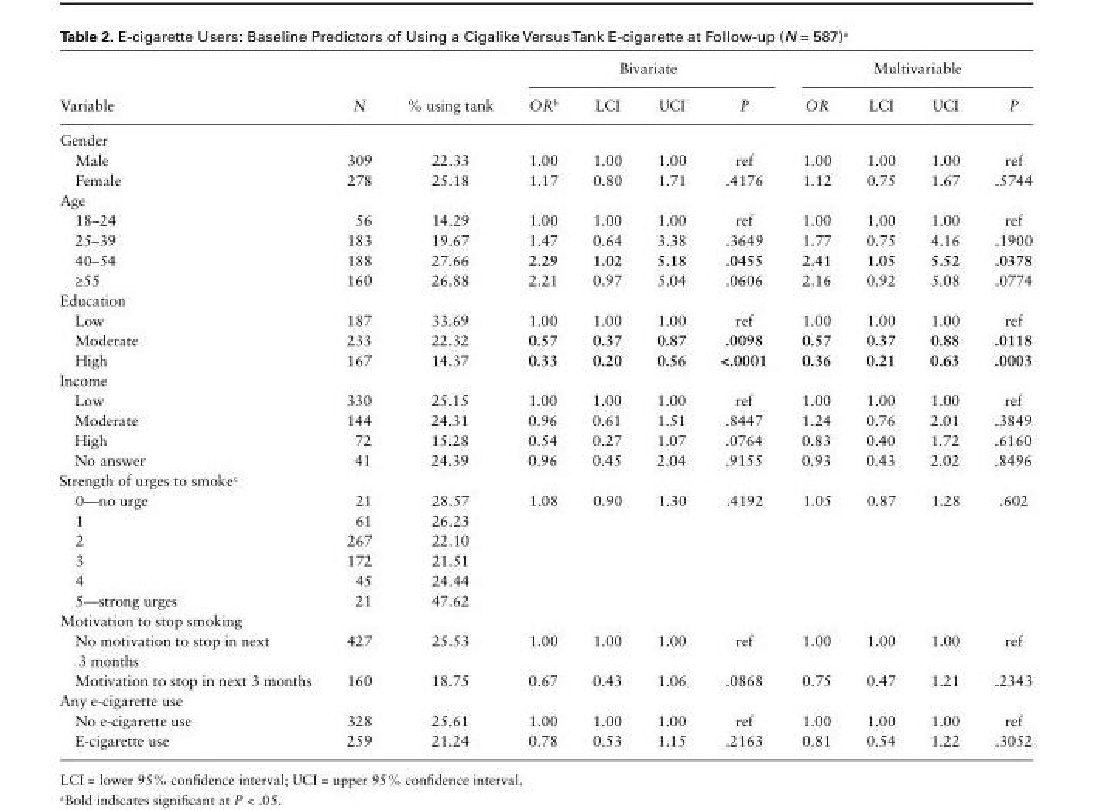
<table><thead><tr><td rowspan="2">Variable</td><td rowspan="2">N</td><td rowspan="2">% using tank</td><td colspan="4">Bivariate</td><td colspan="4">Multivariable</td></tr><tr><td>OR<sup>b</sup></td><td>LCI</td><td>UCI</td><td>P</td><td>OR</td><td>LCI</td><td>UCI</td><td>P</td></tr></thead><tbody><tr><td colspan="11">Gender</td></tr><tr><td>Male</td><td>309</td><td>22.33</td><td>1.00</td><td>1.00</td><td>1.00</td><td>ref</td><td>1.00</td><td>1.00</td><td>1.00</td><td>ref</td></tr><tr><td>Female</td><td>278</td><td>25.18</td><td>1.17</td><td>0.80</td><td>1.71</td><td>.4176</td><td>1.12</td><td>0.75</td><td>1.67</td><td>.5744</td></tr><tr><td colspan="11">Age</td></tr><tr><td>18–24</td><td>56</td><td>14.29</td><td>1.00</td><td>1.00</td><td>1.00</td><td>ref</td><td>1.00</td><td>1.00</td><td>1.00</td><td>ref</td></tr><tr><td>25–39</td><td>183</td><td>19.67</td><td>1.47</td><td>0.64</td><td>3.38</td><td>.3649</td><td>1.77</td><td>0.75</td><td>4.16</td><td>.1900</td></tr><tr><td>40–54</td><td>188</td><td>27.66</td><td>2.29</td><td>1.02</td><td>5.18</td><td>.0455</td><td>2.41</td><td>1.05</td><td>5.52</td><td>.0378</td></tr><tr><td>≥55</td><td>160</td><td>26.88</td><td>2.21</td><td>0.97</td><td>5.04</td><td>.0606</td><td>2.16</td><td>0.92</td><td>5.08</td><td>.0774</td></tr><tr><td colspan="11">Education</td></tr><tr><td>Low</td><td>187</td><td>33.69</td><td>1.00</td><td>1.00</td><td>1.00</td><td>ref</td><td>1.00</td><td>1.00</td><td>1.00</td><td>ref</td></tr><tr><td>Moderate</td><td>233</td><td>22.32</td><td>0.57</td><td>0.37</td><td>0.87</td><td>.0098</td><td>0.57</td><td>0.37</td><td>0.88</td><td>.0118</td></tr><tr><td>High</td><td>167</td><td>14.37</td><td>0.33</td><td>0.20</td><td>0.56</td><td>&lt;.0001</td><td>0.36</td><td>0.21</td><td>0.63</td><td>.0003</td></tr><tr><td colspan="11">Income</td></tr><tr><td>Low</td><td>330</td><td>25.15</td><td>1.00</td><td>1.00</td><td>1.00</td><td>ref</td><td>1.00</td><td>1.00</td><td>1.00</td><td>ref</td></tr><tr><td>Moderate</td><td>144</td><td>24.31</td><td>0.96</td><td>0.61</td><td>1.51</td><td>.8447</td><td>1.24</td><td>0.76</td><td>2.01</td><td>.3849</td></tr><tr><td>High</td><td>72</td><td>15.28</td><td>0.54</td><td>0.27</td><td>1.07</td><td>.0764</td><td>0.83</td><td>0.40</td><td>1.72</td><td>.6160</td></tr><tr><td>No answer</td><td>41</td><td>24.39</td><td>0.96</td><td>0.45</td><td>2.04</td><td>.9155</td><td>0.93</td><td>0.43</td><td>2.02</td><td>.8496</td></tr><tr><td colspan="11">Strength of urges to smoke<sup>c</sup></td></tr><tr><td>0—no urge</td><td>21</td><td>28.57</td><td>1.08</td><td>0.90</td><td>1.30</td><td>.4192</td><td>1.05</td><td>0.87</td><td>1.28</td><td>.602</td></tr><tr><td>1</td><td>61</td><td>26.23</td><td></td><td></td><td></td><td></td><td></td><td></td><td></td><td></td></tr><tr><td>2</td><td>267</td><td>22.10</td><td></td><td></td><td></td><td></td><td></td><td></td><td></td><td></td></tr><tr><td>3</td><td>172</td><td>21.51</td><td></td><td></td><td></td><td></td><td></td><td></td><td></td><td></td></tr><tr><td>4</td><td>45</td><td>24.44</td><td></td><td></td><td></td><td></td><td></td><td></td><td></td><td></td></tr><tr><td>5—strong urges</td><td>21</td><td>47.62</td><td></td><td></td><td></td><td></td><td></td><td></td><td></td><td></td></tr><tr><td colspan="11">Motivation to stop smoking</td></tr><tr><td>No motivation to stop in next 3 months</td><td>427</td><td>25.53</td><td>1.00</td><td>1.00</td><td>1.00</td><td>ref</td><td>1.00</td><td>1.00</td><td>1.00</td><td>ref</td></tr><tr><td>Motivation to stop in next 3 months</td><td>160</td><td>18.75</td><td>0.67</td><td>0.43</td><td>1.06</td><td>.0868</td><td>0.75</td><td>0.47</td><td>1.21</td><td>.2343</td></tr><tr><td colspan="11">Any e-cigarette use</td></tr><tr><td>No e-cigarette use</td><td>328</td><td>25.61</td><td>1.00</td><td>1.00</td><td>1.00</td><td>ref</td><td>1.00</td><td>1.00</td><td>1.00</td><td>ref</td></tr><tr><td>E-cigarette use</td><td>259</td><td>21.24</td><td>0.78</td><td>0.53</td><td>1.15</td><td>.2163</td><td>0.81</td><td>0.54</td><td>1.22</td><td>.3052</td></tr></tbody></table>